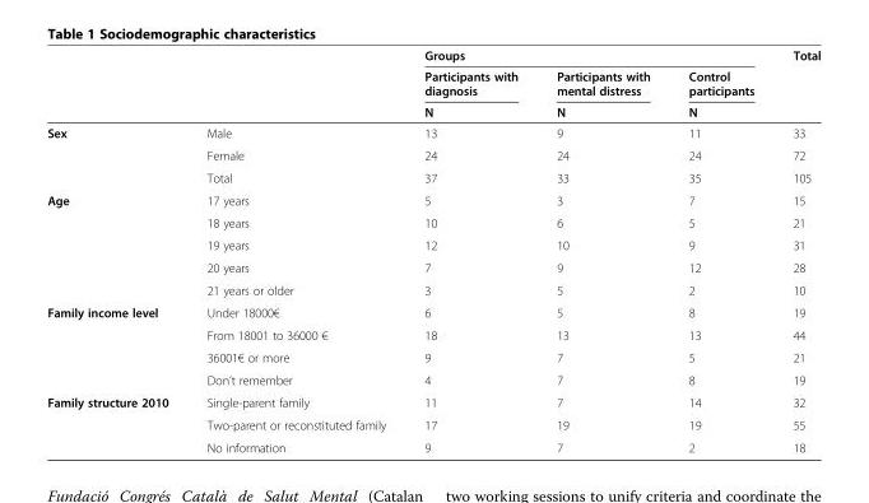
<table><thead><tr><td rowspan="3"></td><td rowspan="3"></td><td colspan="3">Groups</td><td rowspan="3">Total</td></tr><tr><td rowspan="2">Participants with diagnosis N</td><td rowspan="2">Participants with mental distress N</td><td rowspan="2">Control participants N</td></tr><tr></tr></thead><tbody><tr><td rowspan="3">Sex</td><td>Male</td><td>13</td><td>9</td><td>11</td><td>33</td></tr><tr><td>Female</td><td>24</td><td>24</td><td>24</td><td>72</td></tr><tr><td>Total</td><td>37</td><td>33</td><td>35</td><td>105</td></tr><tr><td rowspan="5">Age</td><td>17 years</td><td>5</td><td>3</td><td>7</td><td>15</td></tr><tr><td>18 years</td><td>10</td><td>6</td><td>5</td><td>21</td></tr><tr><td>19 years</td><td>12</td><td>10</td><td>9</td><td>31</td></tr><tr><td>20 years</td><td>7</td><td>9</td><td>12</td><td>28</td></tr><tr><td>21 years or older</td><td>3</td><td>5</td><td>2</td><td>10</td></tr><tr><td rowspan="4">Family income level</td><td>Under 18000€</td><td>6</td><td>5</td><td>8</td><td>19</td></tr><tr><td>From 18001 to 36000 €</td><td>18</td><td>13</td><td>13</td><td>44</td></tr><tr><td>36001€ or more</td><td>9</td><td>7</td><td>5</td><td>21</td></tr><tr><td>Don’t remember</td><td>4</td><td>7</td><td>8</td><td>19</td></tr><tr><td rowspan="3">Family structure 2010</td><td>Single-parent family</td><td>11</td><td>7</td><td>14</td><td>32</td></tr><tr><td>Two-parent or reconstituted family</td><td>17</td><td>19</td><td>19</td><td>55</td></tr><tr><td>No information</td><td>9</td><td>7</td><td>2</td><td>18</td></tr></tbody></table>